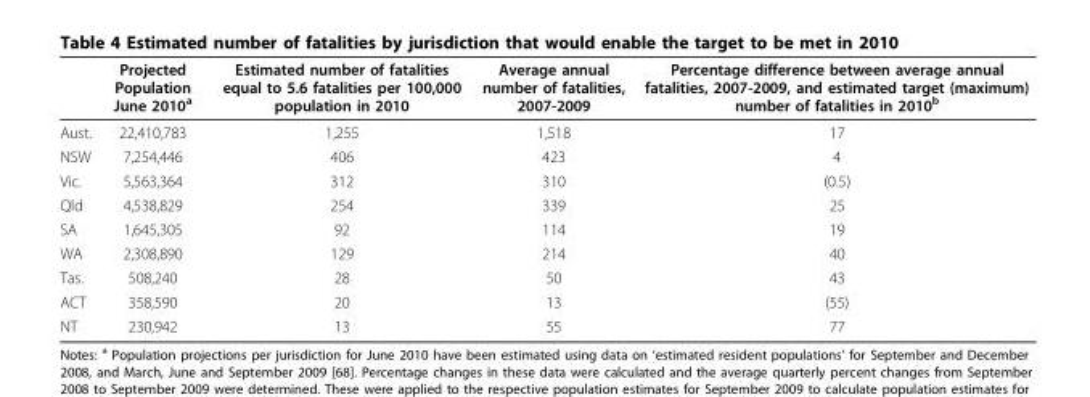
<table><thead><tr><td></td><td>Projected Population June 2010<sup>a</sup></td><td>Estimated number of fatalities equal to 5.6 fatalities per 100,000 population in 2010</td><td>Average annual number of fatalities, 2007-2009</td><td>Percentage difference between average annual fatalities, 2007-2009, and estimated target (maximum) number of fatalities in 2010<sup>b</sup></td></tr></thead><tbody><tr><td>Aust.</td><td>22,410,783</td><td>1,255</td><td>1,518</td><td>17</td></tr><tr><td>NSW</td><td>7,254,446</td><td>406</td><td>423</td><td>4</td></tr><tr><td>Vic.</td><td>5,563,364</td><td>312</td><td>310</td><td>(0.5)</td></tr><tr><td>Qld</td><td>4,538,829</td><td>254</td><td>339</td><td>25</td></tr><tr><td>SA</td><td>1,645,305</td><td>92</td><td>114</td><td>19</td></tr><tr><td>WA</td><td>2,308,890</td><td>129</td><td>214</td><td>40</td></tr><tr><td>Tas.</td><td>508,240</td><td>28</td><td>50</td><td>43</td></tr><tr><td>ACT</td><td>358,590</td><td>20</td><td>13</td><td>(55)</td></tr><tr><td>NT</td><td>230,942</td><td>13</td><td>55</td><td>77</td></tr></tbody></table>